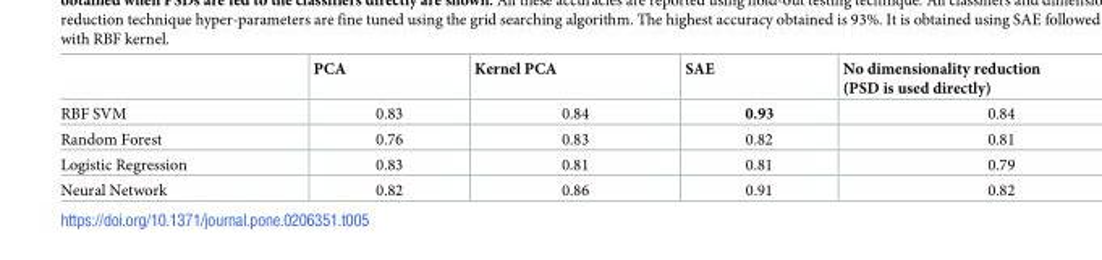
<table><thead><tr><td></td><td>PCA</td><td>Kernel PCA</td><td>SAE</td><td>No dimensionality reduction (PSD is used directly)</td></tr></thead><tbody><tr><td>RBF SVM</td><td>0.83</td><td>0.84</td><td>0.93</td><td>0.84</td></tr><tr><td>Random Forest</td><td>0.76</td><td>0.83</td><td>0.82</td><td>0.81</td></tr><tr><td>Logistic Regression</td><td>0.83</td><td>0.81</td><td>0.81</td><td>0.79</td></tr><tr><td>Neural Network</td><td>0.82</td><td>0.86</td><td>0.91</td><td>0.82</td></tr></tbody></table>